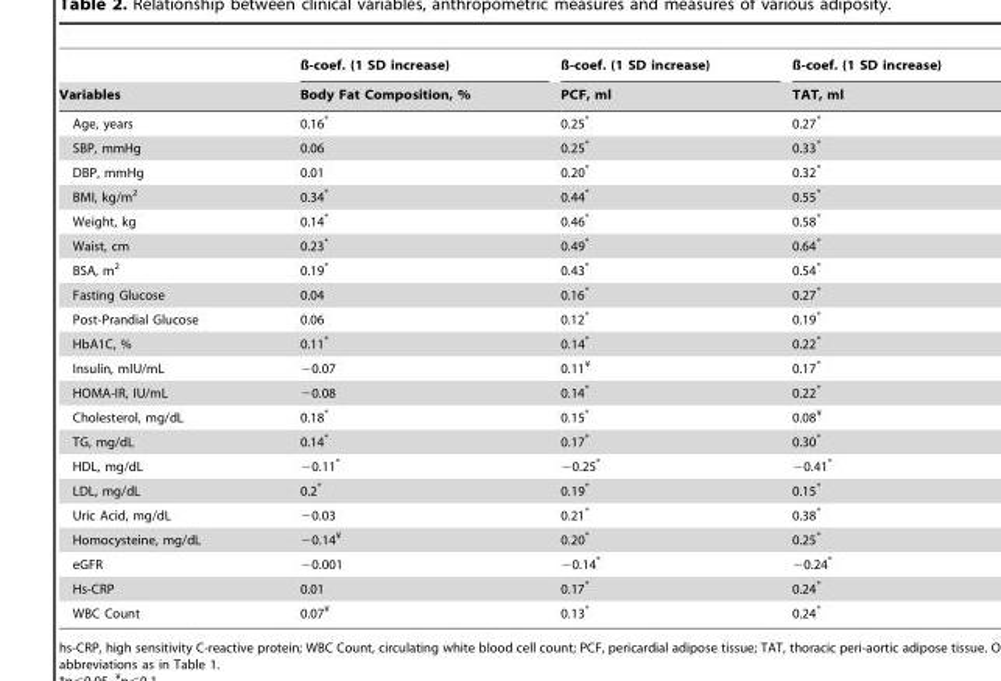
<table><thead><tr><td rowspan="2">Variables</td><td rowspan="2">ß-coef. (1 SD increase) Body Fat Composition, %</td><td rowspan="2">ß-coef. (1 SD increase) PCF, ml</td><td rowspan="2">ß-coef. (1 SD increase) TAT, ml</td></tr><tr></tr></thead><tbody><tr><td>Age, years</td><td>0.16*</td><td>0.25*</td><td>0.27*</td></tr><tr><td>SBP, mmHg</td><td>0.06</td><td>0.25*</td><td>0.33*</td></tr><tr><td>DBP, mmHg</td><td>0.01</td><td>0.20*</td><td>0.32*</td></tr><tr><td>BMI, kg/m<sup>2</sup></td><td>0.34*</td><td>0.44*</td><td>0.55*</td></tr><tr><td>Weight, kg</td><td>0.14*</td><td>0.46*</td><td>0.58*</td></tr><tr><td>Waist, cm</td><td>0.23*</td><td>0.49*</td><td>0.64*</td></tr><tr><td>BSA, m<sup>2</sup></td><td>0.19*</td><td>0.43*</td><td>0.54*</td></tr><tr><td>Fasting Glucose</td><td>0.04</td><td>0.16*</td><td>0.27*</td></tr><tr><td>Post-Prandial Glucose</td><td>0.06</td><td>0.12*</td><td>0.19*</td></tr><tr><td>HbA1C, %</td><td>0.11*</td><td>0.14*</td><td>0.22*</td></tr><tr><td>Insulin, mIU/mL</td><td>−0.07</td><td>0.11<sup>¥</sup></td><td>0.17*</td></tr><tr><td>HOMA-IR, IU/mL</td><td>−0.08</td><td>0.14*</td><td>0.22*</td></tr><tr><td>Cholesterol, mg/dL</td><td>0.18*</td><td>0.15*</td><td>0.08<sup>¥</sup></td></tr><tr><td>TG, mg/dL</td><td>0.14*</td><td>0.17*</td><td>0.30*</td></tr><tr><td>HDL, mg/dL</td><td>−0.11*</td><td>−0.25*</td><td>−0.41*</td></tr><tr><td>LDL, mg/dL</td><td>0.2*</td><td>0.19*</td><td>0.15*</td></tr><tr><td>Uric Acid, mg/dL</td><td>−0.03</td><td>0.21*</td><td>0.38*</td></tr><tr><td>Homocysteine, mg/dL</td><td>−0.14<sup>¥</sup></td><td>0.20*</td><td>0.25*</td></tr><tr><td>eGFR</td><td>−0.001</td><td>−0.14*</td><td>−0.24*</td></tr><tr><td>Hs-CRP</td><td>0.01</td><td>0.17*</td><td>0.24*</td></tr><tr><td>WBC Count</td><td>0.07<sup>¥</sup></td><td>0.13*</td><td>0.24*</td></tr></tbody></table>